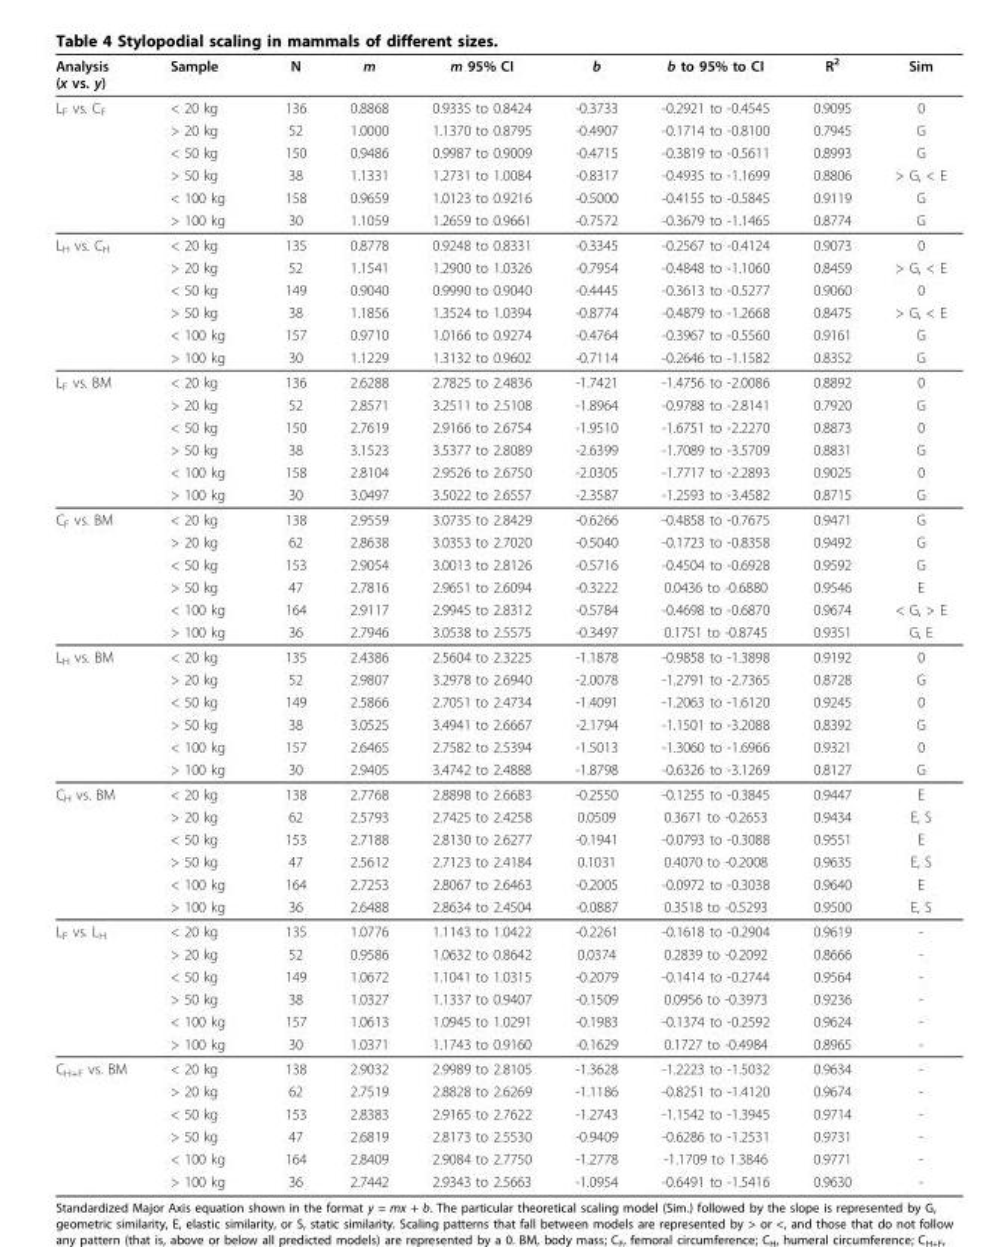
<table><thead><tr><td>Analysis (x vs. y)</td><td>Sample</td><td>N</td><td>m</td><td>m 95% CI</td><td>b</td><td>b to 95% to CI</td><td>R<sup>2</sup></td><td>Sim</td></tr></thead><tbody><tr><td rowspan="6">L<sub>F</sub> vs. C<sub>F</sub></td><td>&lt; 20 kg</td><td>136</td><td>0.8868</td><td>0.9335 to 0.8424</td><td>-0.3733</td><td>-0.2921 to -0.4545</td><td>0.9095</td><td>0</td></tr><tr><td>&gt; 20 kg</td><td>52</td><td>1.0000</td><td>1.1370 to 0.8795</td><td>-0.4907</td><td>-0.1714 to -0.8100</td><td>0.7945</td><td>G</td></tr><tr><td>&lt; 50 kg</td><td>150</td><td>0.9486</td><td>0.9987 to 0.9009</td><td>-0.4715</td><td>-0.3819 to -0.5611</td><td>0.8993</td><td>G</td></tr><tr><td>&gt; 50 kg</td><td>38</td><td>1.1331</td><td>1.2731 to 1.0084</td><td>-0.8317</td><td>-0.4935 to -1.1699</td><td>0.8806</td><td>&gt; G, &lt; E</td></tr><tr><td>&lt; 100 kg</td><td>158</td><td>0.9659</td><td>1.0123 to 0.9216</td><td>-0.5000</td><td>-0.4155 to -0.5845</td><td>0.9119</td><td>G</td></tr><tr><td>&gt; 100 kg</td><td>30</td><td>1.1059</td><td>1.2659 to 0.9661</td><td>-0.7572</td><td>-0.3679 to -1.1465</td><td>0.8774</td><td>G</td></tr><tr><td rowspan="6">L<sub>H</sub> vs. C<sub>H</sub></td><td>&lt; 20 kg</td><td>135</td><td>0.8778</td><td>0.9248 to 0.8331</td><td>-0.3345</td><td>-0.2567 to -0.4124</td><td>0.9073</td><td>0</td></tr><tr><td>&gt; 20 kg</td><td>52</td><td>1.1541</td><td>1.2900 to 1.0326</td><td>-0.7954</td><td>-0.4848 to -1.1060</td><td>0.8459</td><td>&gt; G, &lt; E</td></tr><tr><td>&lt; 50 kg</td><td>149</td><td>0.9040</td><td>0.9990 to 0.9040</td><td>-0.4445</td><td>-0.3613 to -0.5277</td><td>0.9060</td><td>0</td></tr><tr><td>&gt; 50 kg</td><td>38</td><td>1.1856</td><td>1.3524 to 1.0394</td><td>-0.8774</td><td>-0.4879 to -1.2668</td><td>0.8475</td><td>&gt; G, &lt; E</td></tr><tr><td>&lt; 100 kg</td><td>157</td><td>0.9710</td><td>1.0166 to 0.9274</td><td>-0.4764</td><td>-0.3967 to -0.5560</td><td>0.9161</td><td>G</td></tr><tr><td>&gt; 100 kg</td><td>30</td><td>1.1229</td><td>1.3132 to 0.9602</td><td>-0.7114</td><td>-0.2646 to -1.1582</td><td>0.8352</td><td>G</td></tr><tr><td rowspan="6">L<sub>F</sub> vs. BM</td><td>&lt; 20 kg</td><td>136</td><td>2.6288</td><td>2.7825 to 2.4836</td><td>-1.7421</td><td>-1.4756 to -2.0086</td><td>0.8892</td><td>0</td></tr><tr><td>&gt; 20 kg</td><td>52</td><td>2.8571</td><td>3.2511 to 2.5108</td><td>-1.8964</td><td>-0.9788 to -2.8141</td><td>0.7920</td><td>G</td></tr><tr><td>&lt; 50 kg</td><td>150</td><td>2.7619</td><td>2.9166 to 2.6754</td><td>-1.9510</td><td>-1.6751 to -2.2270</td><td>0.8873</td><td>0</td></tr><tr><td>&gt; 50 kg</td><td>38</td><td>3.1523</td><td>3.5377 to 2.8089</td><td>-2.6399</td><td>-1.7089 to -3.5709</td><td>0.8831</td><td>G</td></tr><tr><td>&lt; 100 kg</td><td>158</td><td>2.8104</td><td>2.9526 to 2.6750</td><td>-2.0305</td><td>-1.7717 to -2.2893</td><td>0.9025</td><td>0</td></tr><tr><td>&gt; 100 kg</td><td>30</td><td>3.0497</td><td>3.5022 to 2.6557</td><td>-2.3587</td><td>-1.2593 to -3.4582</td><td>0.8715</td><td>G</td></tr><tr><td rowspan="6">C<sub>F</sub> vs. BM</td><td>&lt; 20 kg</td><td>138</td><td>2.9559</td><td>3.0735 to 2.8429</td><td>-0.6266</td><td>-0.4858 to -0.7675</td><td>0.9471</td><td>G</td></tr><tr><td>&gt; 20 kg</td><td>62</td><td>2.8638</td><td>3.0353 to 2.7020</td><td>-0.5040</td><td>-0.1723 to -0.8358</td><td>0.9492</td><td>G</td></tr><tr><td>&lt; 50 kg</td><td>153</td><td>2.9054</td><td>3.0013 to 2.8126</td><td>-0.5716</td><td>-0.4504 to -0.6928</td><td>0.9592</td><td>G</td></tr><tr><td>&gt; 50 kg</td><td>47</td><td>2.7816</td><td>2.9651 to 2.6094</td><td>-0.3222</td><td>0.0436 to -0.6880</td><td>0.9546</td><td>E</td></tr><tr><td>&lt; 100 kg</td><td>164</td><td>2.9117</td><td>2.9945 to 2.8312</td><td>-0.5784</td><td>-0.4698 to -0.6870</td><td>0.9674</td><td>&lt; G, &gt; E</td></tr><tr><td>&gt; 100 kg</td><td>36</td><td>2.7946</td><td>3.0538 to 2.5575</td><td>-0.3497</td><td>0.1751 to -0.8745</td><td>0.9351</td><td>G, E</td></tr><tr><td rowspan="6">L<sub>H</sub> vs. BM</td><td>&lt; 20 kg</td><td>135</td><td>2.4386</td><td>2.5604 to 2.3225</td><td>-1.1878</td><td>-0.9858 to -1.3898</td><td>0.9192</td><td>0</td></tr><tr><td>&gt; 20 kg</td><td>52</td><td>2.9807</td><td>3.2978 to 2.6940</td><td>-2.0078</td><td>-1.2791 to -2.7365</td><td>0.8728</td><td>G</td></tr><tr><td>&lt; 50 kg</td><td>149</td><td>2.5866</td><td>2.7051 to 2.4734</td><td>-1.4091</td><td>-1.2063 to -1.6120</td><td>0.9245</td><td>0</td></tr><tr><td>&gt; 50 kg</td><td>38</td><td>3.0525</td><td>3.4941 to 2.6667</td><td>-2.1794</td><td>-1.1501 to -3.2088</td><td>0.8392</td><td>G</td></tr><tr><td>&lt; 100 kg</td><td>157</td><td>2.6465</td><td>2.7582 to 2.5394</td><td>-1.5013</td><td>-1.3060 to -1.6966</td><td>0.9321</td><td>0</td></tr><tr><td>&gt; 100 kg</td><td>30</td><td>2.9405</td><td>3.4742 to 2.4888</td><td>-1.8798</td><td>-0.6326 to -3.1269</td><td>0.8127</td><td>G</td></tr><tr><td rowspan="6">C<sub>H</sub> vs. BM</td><td>&lt; 20 kg</td><td>138</td><td>2.7768</td><td>2.8898 to 2.6683</td><td>-0.2550</td><td>-0.1255 to -0.3845</td><td>0.9447</td><td>E</td></tr><tr><td>&gt; 20 kg</td><td>62</td><td>2.5793</td><td>2.7425 to 2.4258</td><td>0.0509</td><td>0.3671 to -0.2653</td><td>0.9434</td><td>E, S</td></tr><tr><td>&lt; 50 kg</td><td>153</td><td>2.7188</td><td>2.8130 to 2.6277</td><td>-0.1941</td><td>-0.0793 to -0.3088</td><td>0.9551</td><td>E</td></tr><tr><td>&gt; 50 kg</td><td>47</td><td>2.5612</td><td>2.7123 to 2.4184</td><td>0.1031</td><td>0.4070 to -0.2008</td><td>0.9635</td><td>E, S</td></tr><tr><td>&lt; 100 kg</td><td>164</td><td>2.7253</td><td>2.8067 to 2.6463</td><td>-0.2005</td><td>-0.0972 to -0.3038</td><td>0.9640</td><td>E</td></tr><tr><td>&gt; 100 kg</td><td>36</td><td>2.6488</td><td>2.8634 to 2.4504</td><td>-0.0887</td><td>0.3518 to -0.5293</td><td>0.9500</td><td>E, S</td></tr><tr><td rowspan="6">L<sub>F</sub> vs. L<sub>H</sub></td><td>&lt; 20 kg</td><td>135</td><td>1.0776</td><td>1.1143 to 1.0422</td><td>-0.2261</td><td>-0.1618 to -0.2904</td><td>0.9619</td><td>-</td></tr><tr><td>&gt; 20 kg</td><td>52</td><td>0.9586</td><td>1.0632 to 0.8642</td><td>0.0374</td><td>0.2839 to -0.2092</td><td>0.8666</td><td>-</td></tr><tr><td>&lt; 50 kg</td><td>149</td><td>1.0672</td><td>1.1041 to 1.0315</td><td>-0.2079</td><td>-0.1414 to -0.2744</td><td>0.9564</td><td>-</td></tr><tr><td>&gt; 50 kg</td><td>38</td><td>1.0327</td><td>1.1337 to 0.9407</td><td>-0.1509</td><td>0.0956 to -0.3973</td><td>0.9236</td><td>-</td></tr><tr><td>&lt; 100 kg</td><td>157</td><td>1.0613</td><td>1.0945 to 1.0291</td><td>-0.1983</td><td>-0.1374 to -0.2592</td><td>0.9624</td><td>-</td></tr><tr><td>&gt; 100 kg</td><td>30</td><td>1.0371</td><td>1.1743 to 0.9160</td><td>-0.1629</td><td>0.1727 to -0.4984</td><td>0.8965</td><td>-</td></tr><tr><td rowspan="6">C<sub>H+F</sub> vs. BM</td><td>&lt; 20 kg</td><td>138</td><td>2.9032</td><td>2.9989 to 2.8105</td><td>-1.3628</td><td>-1.2223 to -1.5032</td><td>0.9634</td><td>-</td></tr><tr><td>&gt; 20 kg</td><td>62</td><td>2.7519</td><td>2.8828 to 2.6269</td><td>-1.1186</td><td>-0.8251 to -1.4120</td><td>0.9674</td><td>-</td></tr><tr><td>&lt; 50 kg</td><td>153</td><td>2.8383</td><td>2.9165 to 2.7622</td><td>-1.2743</td><td>-1.1542 to -1.3945</td><td>0.9714</td><td>-</td></tr><tr><td>&gt; 50 kg</td><td>47</td><td>2.6819</td><td>2.8173 to 2.5530</td><td>-0.9409</td><td>-0.6286 to -1.2531</td><td>0.9731</td><td>-</td></tr><tr><td>&lt; 100 kg</td><td>164</td><td>2.8409</td><td>2.9084 to 2.7750</td><td>-1.2778</td><td>-1.1709 to 1.3846</td><td>0.9771</td><td>-</td></tr><tr><td>&gt; 100 kg</td><td>36</td><td>2.7442</td><td>2.9343 to 2.5663</td><td>-1.0954</td><td>-0.6491 to -1.5416</td><td>0.9630</td><td>-</td></tr></tbody></table>